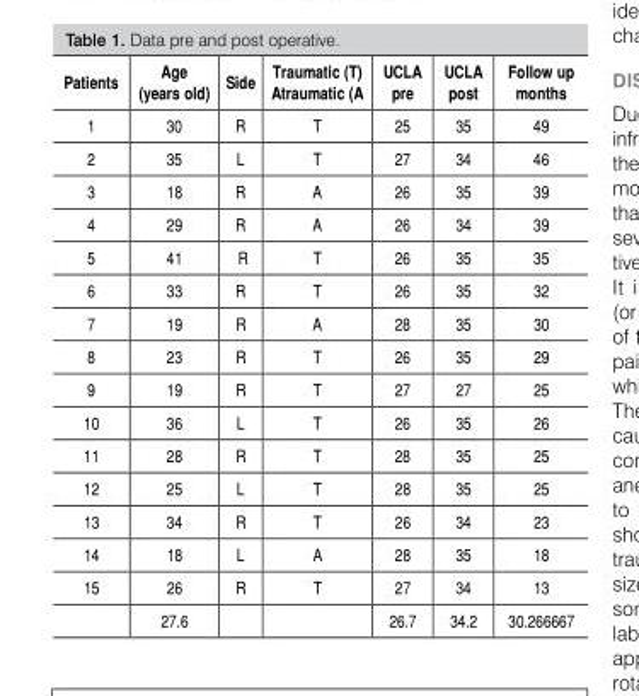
<table><thead><tr><td>Patients</td><td>Age (years old)</td><td>Side</td><td>Traumatic (T) Atraumatic (A</td><td>UCLA pre</td><td>UCLA post</td><td>Follow up months</td></tr></thead><tbody><tr><td>1</td><td>30</td><td>R</td><td>T</td><td>25</td><td>35</td><td>49</td></tr><tr><td>2</td><td>35</td><td>L</td><td>T</td><td>27</td><td>34</td><td>46</td></tr><tr><td>3</td><td>18</td><td>R</td><td>A</td><td>26</td><td>35</td><td>39</td></tr><tr><td>4</td><td>29</td><td>R</td><td>A</td><td>26</td><td>34</td><td>39</td></tr><tr><td>5</td><td>41</td><td>R</td><td>T</td><td>26</td><td>35</td><td>35</td></tr><tr><td>6</td><td>33</td><td>R</td><td>T</td><td>26</td><td>35</td><td>32</td></tr><tr><td>7</td><td>19</td><td>R</td><td>A</td><td>28</td><td>35</td><td>30</td></tr><tr><td>8</td><td>23</td><td>R</td><td>T</td><td>26</td><td>35</td><td>29</td></tr><tr><td>9</td><td>19</td><td>R</td><td>T</td><td>27</td><td>27</td><td>25</td></tr><tr><td>10</td><td>36</td><td>L</td><td>T</td><td>26</td><td>35</td><td>26</td></tr><tr><td>11</td><td>28</td><td>R</td><td>T</td><td>28</td><td>35</td><td>25</td></tr><tr><td>12</td><td>25</td><td>L</td><td>T</td><td>28</td><td>35</td><td>25</td></tr><tr><td>13</td><td>34</td><td>R</td><td>T</td><td>26</td><td>34</td><td>23</td></tr><tr><td>14</td><td>18</td><td>L</td><td>A</td><td>28</td><td>35</td><td>18</td></tr><tr><td rowspan="2">15</td><td>26</td><td>R</td><td>T</td><td>27</td><td>34</td><td>13</td></tr><tr><td>27.6</td><td></td><td></td><td>26.7</td><td>34.2</td><td>30.266667</td></tr></tbody></table>